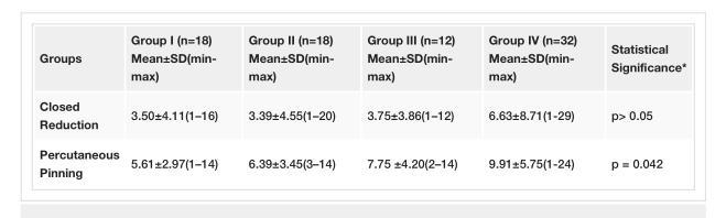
<table><tbody><tr><td>Groups</td><td>Group I (n=18) Mean±SD(min- max)</td><td>Group II (n=18) Mean±SD(min- max)</td><td>Group III (n=12) Mean±SD(min- max)</td><td>Group IV (n=32) Mean±SD(min- max)</td><td>Statistical Significance*</td></tr><tr><td>Closed Reduction</td><td>3.50±4.11(1–16)</td><td>3.39±4.55(1–20)</td><td>3.75±3.86(1–12)</td><td>6.63±8.71(1-29)</td><td>p&gt; 0.05</td></tr><tr><td>Percutaneous Pinning</td><td>5.61±2.97(1–14)</td><td>6.39±3.45(3–14)</td><td>7.75 ±4.20(2–14)</td><td>9.91±5.75(1-24)</td><td>p = 0.042</td></tr></tbody></table>